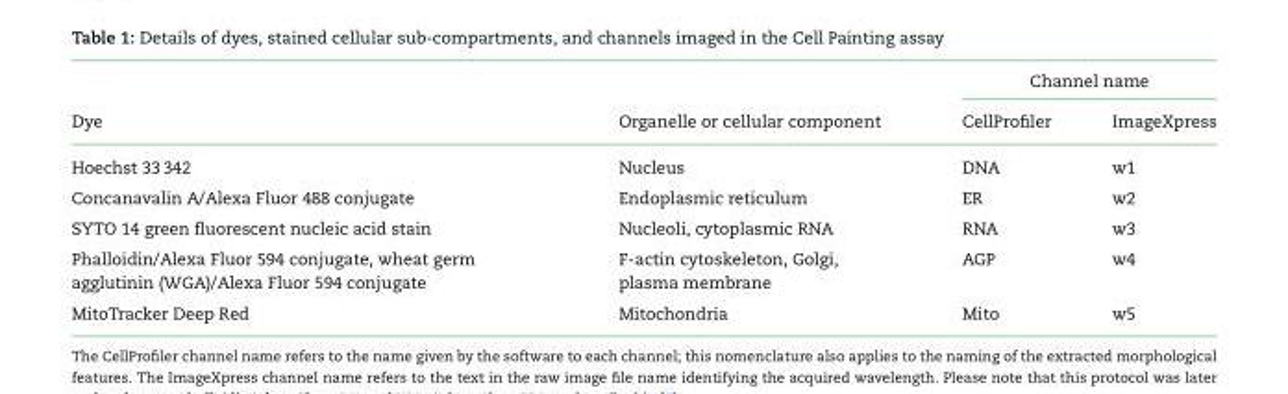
<table><thead><tr><td rowspan="2">Dye</td><td rowspan="2">Organelle or cellular component</td><td colspan="2">Channel name</td></tr><tr><td>CellProfiler</td><td>ImageXpress</td></tr></thead><tbody><tr><td>Hoechst 33 342</td><td>Nucleus</td><td>DNA</td><td>w1</td></tr><tr><td>Concanavalin A/Alexa Fluor 488 conjugate</td><td>Endoplasmic reticulum</td><td>ER</td><td>w2</td></tr><tr><td>SYTO 14 green fluorescent nucleic acid stain</td><td>Nucleoli, cytoplasmic RNA</td><td>RNA</td><td>w3</td></tr><tr><td>Phalloidin/Alexa Fluor 594 conjugate, wheat germ agglutinin (WGA)/Alexa Fluor 594 conjugate</td><td>F-actin cytoskeleton, Golgi, plasma membrane</td><td>AGP</td><td>w4</td></tr><tr><td>MitoTracker Deep Red</td><td>Mitochondria</td><td>Mito</td><td>w5</td></tr></tbody></table>